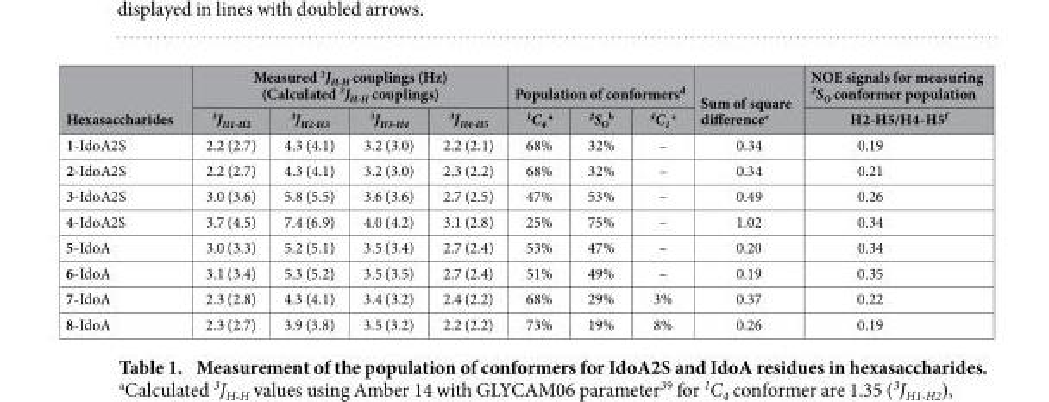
<table><thead><tr><td rowspan="2">Hexasaccharides</td><td colspan="4">Measured <sup>3</sup>J<sub>H-H</sub> couplings (Hz) (Calculated <sup>3</sup>J<sub>H-H</sub> couplings)</td><td colspan="3">Population of conformers<sup>d</sup></td><td rowspan="2">Sum of square difference<sup>e</sup></td><td rowspan="2">NOE signals for measuring <sup>2</sup>S<sub>O</sub> conformer population H2-H5/H4-H5<sup>f</sup></td></tr><tr><td><sup>3</sup>J<sub>H1-H2</sub></td><td><sup>3</sup>J<sub>H2-H3</sub></td><td><sup>3</sup>J<sub>H3-H4</sub></td><td><sup>3</sup>J<sub>H4-H5</sub></td><td><sup>1</sup>C<sub>4</sub> a</td><td><sup>2</sup>S<sub>O</sub> <sup>b</sup></td><td><sup>4</sup>C<sub>1</sub> c</td></tr></thead><tbody><tr><td>1-IdoA2S</td><td>2.2 (2.7)</td><td>4.3 (4.1)</td><td>3.2 (3.0)</td><td>2.2 (2.1)</td><td>68%</td><td>32%</td><td>–</td><td>0.34</td><td>0.19</td></tr><tr><td>2-IdoA2S</td><td>2.2 (2.7)</td><td>4.3 (4.1)</td><td>3.2 (3.0)</td><td>2.3 (2.2)</td><td>68%</td><td>32%</td><td>–</td><td>0.34</td><td>0.21</td></tr><tr><td>3-IdoA2S</td><td>3.0 (3.6)</td><td>5.8 (5.5)</td><td>3.6 (3.6)</td><td>2.7 (2.5)</td><td>47%</td><td>53%</td><td>–</td><td>0.49</td><td>0.26</td></tr><tr><td>4-IdoA2S</td><td>3.7 (4.5)</td><td>7.4 (6.9)</td><td>4.0 (4.2)</td><td>3.1 (2.8)</td><td>25%</td><td>75%</td><td>–</td><td>1.02</td><td>0.34</td></tr><tr><td>5-IdoA</td><td>3.0 (3.3)</td><td>5.2 (5.1)</td><td>3.5 (3.4)</td><td>2.7 (2.4)</td><td>53%</td><td>47%</td><td>–</td><td>0.20</td><td>0.34</td></tr><tr><td>6-IdoA</td><td>3.1 (3.4)</td><td>5.3 (5.2)</td><td>3.5 (3.5)</td><td>2.7 (2.4)</td><td>51%</td><td>49%</td><td>–</td><td>0.19</td><td>0.35</td></tr><tr><td>7-IdoA</td><td>2.3 (2.8)</td><td>4.3 (4.1)</td><td>3.4 (3.2)</td><td>2.4 (2.2)</td><td>68%</td><td>29%</td><td>3%</td><td>0.37</td><td>0.22</td></tr><tr><td>8-IdoA</td><td>2.3 (2.7)</td><td>3.9 (3.8)</td><td>3.5 (3.2)</td><td>2.2 (2.2)</td><td>73%</td><td>19%</td><td>8%</td><td>0.26</td><td>0.19</td></tr></tbody></table>